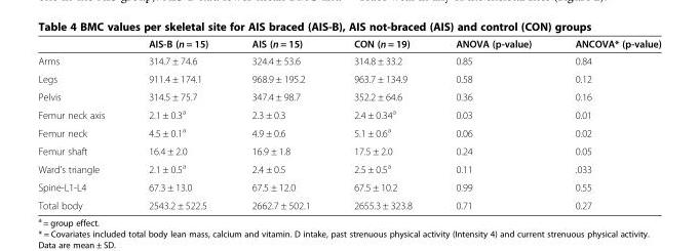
<table><thead><tr><td></td><td>AIS-B (n = 15)</td><td>AIS (n = 15)</td><td>CON (n = 19)</td><td>ANOVA (p-value)</td><td>ANCOVA* (p-value)</td></tr></thead><tbody><tr><td>Arms</td><td>314.7 ± 74.6</td><td>324.4 ± 53.6</td><td>314.8 ± 33.2</td><td>0.85</td><td>0.84</td></tr><tr><td>Legs</td><td>911.4 ± 174.1</td><td>968.9 ± 195.2</td><td>963.7 ± 134.9</td><td>0.58</td><td>0.12</td></tr><tr><td>Pelvis</td><td>314.5 ± 75.7</td><td>347.4 ± 98.7</td><td>352.2 ± 64.6</td><td>0.36</td><td>0.16</td></tr><tr><td>Femur neck axis</td><td>2.1 ± 0.3<sup>a</sup></td><td>2.3 ± 0.3</td><td>2.4 ± 0.34<sup>a</sup></td><td>0.03</td><td>0.01</td></tr><tr><td>Femur neck</td><td>4.5 ± 0.1<sup>a</sup></td><td>4.9 ± 0.6</td><td>5.1 ± 0.6<sup>a</sup></td><td>0.06</td><td>0.02</td></tr><tr><td>Femur shaft</td><td>16.4 ± 2.0</td><td>16.9 ± 1.8</td><td>17.5 ± 2.0</td><td>0.24</td><td>0.05</td></tr><tr><td>Ward’s triangle</td><td>2.1 ± 0.5<sup>a</sup></td><td>2.4 ± 0.5</td><td>2.5 ± 0.5<sup>a</sup></td><td>0.11</td><td>.033</td></tr><tr><td>Spine-L1-L4</td><td>67.3 ± 13.0</td><td>67.5 ± 12.0</td><td>67.5 ± 10.2</td><td>0.99</td><td>0.55</td></tr><tr><td>Total body</td><td>2543.2 ± 522.5</td><td>2662.7 ± 502.1</td><td>2655.3 ± 323.8</td><td>0.71</td><td>0.27</td></tr></tbody></table>